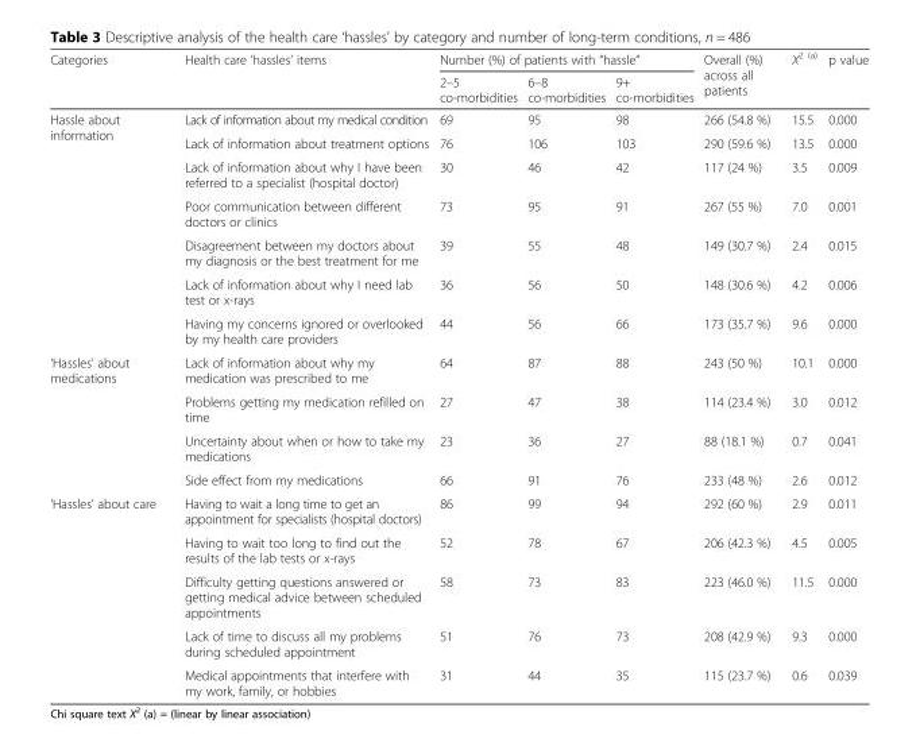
<table><thead><tr><td rowspan="2">Categories</td><td rowspan="2">Health care ‘hassles’ items</td><td colspan="3">Number (%) of patients with “hassle”</td><td rowspan="2">Overall (%) across all patients</td><td rowspan="2">X<sup>2 (a)</sup></td><td rowspan="2">p value</td></tr><tr><td>2–5 co-morbidities</td><td>6–8 co-morbidities</td><td>9+ co-morbidities</td></tr></thead><tbody><tr><td rowspan="7">Hassle about information</td><td>Lack of information about my medical condition</td><td>69</td><td>95</td><td>98</td><td>266 (54.8 %)</td><td>15.5</td><td>0.000</td></tr><tr><td>Lack of information about treatment options</td><td>76</td><td>106</td><td>103</td><td>290 (59.6 %)</td><td>13.5</td><td>0.000</td></tr><tr><td>Lack of information about why I have been referred to a specialist (hospital doctor)</td><td>30</td><td>46</td><td>42</td><td>117 (24 %)</td><td>3.5</td><td>0.009</td></tr><tr><td>Poor communication between different doctors or clinics</td><td>73</td><td>95</td><td>91</td><td>267 (55 %)</td><td>7.0</td><td>0.001</td></tr><tr><td>Disagreement between my doctors about my diagnosis or the best treatment for me</td><td>39</td><td>55</td><td>48</td><td>149 (30.7 %)</td><td>2.4</td><td>0.015</td></tr><tr><td>Lack of information about why I need lab test or x-rays</td><td>36</td><td>56</td><td>50</td><td>148 (30.6 %)</td><td>4.2</td><td>0.006</td></tr><tr><td>Having my concerns ignored or overlooked by my health care providers</td><td>44</td><td>56</td><td>66</td><td>173 (35.7 %)</td><td>9.6</td><td>0.000</td></tr><tr><td rowspan="4">‘Hassles’ about medications</td><td>Lack of information about why my medication was prescribed to me</td><td>64</td><td>87</td><td>88</td><td>243 (50 %)</td><td>10.1</td><td>0.000</td></tr><tr><td>Problems getting my medication refilled on time</td><td>27</td><td>47</td><td>38</td><td>114 (23.4 %)</td><td>3.0</td><td>0.012</td></tr><tr><td>Uncertainty about when or how to take my medications</td><td>23</td><td>36</td><td>27</td><td>88 (18.1 %)</td><td>0.7</td><td>0.041</td></tr><tr><td>Side effect from my medications</td><td>66</td><td>91</td><td>76</td><td>233 (48 %)</td><td>2.6</td><td>0.012</td></tr><tr><td rowspan="5">‘Hassles’ about care</td><td>Having to wait a long time to get an appointment for specialists (hospital doctors)</td><td>86</td><td>99</td><td>94</td><td>292 (60 %)</td><td>2.9</td><td>0.011</td></tr><tr><td>Having to wait too long to find out the results of the lab tests or x-rays</td><td>52</td><td>78</td><td>67</td><td>206 (42.3 %)</td><td>4.5</td><td>0.005</td></tr><tr><td>Difficulty getting questions answered or getting medical advice between scheduled appointments</td><td>58</td><td>73</td><td>83</td><td>223 (46.0 %)</td><td>11.5</td><td>0.000</td></tr><tr><td>Lack of time to discuss all my problems during scheduled appointment</td><td>51</td><td>76</td><td>73</td><td>208 (42.9 %)</td><td>9.3</td><td>0.000</td></tr><tr><td>Medical appointments that interfere with my work, family, or hobbies</td><td>31</td><td>44</td><td>35</td><td>115 (23.7 %)</td><td>0.6</td><td>0.039</td></tr></tbody></table>